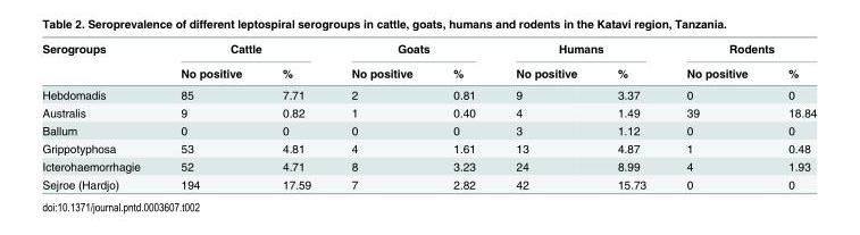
<table><thead><tr><td rowspan="2">Serogroups</td><td colspan="2">Cattle</td><td colspan="2">Goats</td><td colspan="2">Humans</td><td colspan="2">Rodents</td></tr><tr><td>No positive</td><td>%</td><td>No positive</td><td>%</td><td>No positive</td><td>%</td><td>No positive</td><td>%</td></tr></thead><tbody><tr><td>Hebdomadis</td><td>85</td><td>7.71</td><td>2</td><td>0.81</td><td>9</td><td>3.37</td><td>0</td><td>0</td></tr><tr><td>Australis</td><td>9</td><td>0.82</td><td>1</td><td>0.40</td><td>4</td><td>1.49</td><td>39</td><td>18.84</td></tr><tr><td>Ballum</td><td>0</td><td>0</td><td>0</td><td>0</td><td>3</td><td>1.12</td><td>0</td><td>0</td></tr><tr><td>Grippotyphosa</td><td>53</td><td>4.81</td><td>4</td><td>1.61</td><td>13</td><td>4.87</td><td>1</td><td>0.48</td></tr><tr><td>Icterohaemorrhagie</td><td>52</td><td>4.71</td><td>8</td><td>3.23</td><td>24</td><td>8.99</td><td>4</td><td>1.93</td></tr><tr><td>Sejroe (Hardjo)</td><td>194</td><td>17.59</td><td>7</td><td>2.82</td><td>42</td><td>15.73</td><td>0</td><td>0</td></tr></tbody></table>